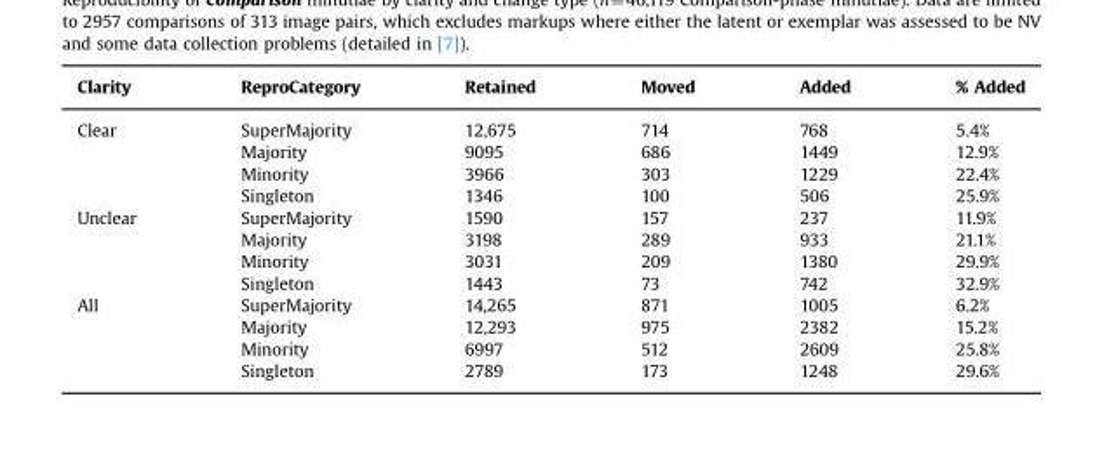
<table><thead><tr><td>Clarity</td><td>ReproCategory</td><td>Retained</td><td>Moved</td><td>Added</td><td>% Added</td></tr></thead><tbody><tr><td rowspan="4">Clear</td><td>SuperMajority</td><td>12,675</td><td>714</td><td>768</td><td>5.4%</td></tr><tr><td>Majority</td><td>9095</td><td>686</td><td>1449</td><td>12.9%</td></tr><tr><td>Minority</td><td>3966</td><td>303</td><td>1229</td><td>22.4%</td></tr><tr><td>Singleton</td><td>1346</td><td>100</td><td>506</td><td>25.9%</td></tr><tr><td rowspan="4">Unclear</td><td>SuperMajority</td><td>1590</td><td>157</td><td>237</td><td>11.9%</td></tr><tr><td>Majority</td><td>3198</td><td>289</td><td>933</td><td>21.1%</td></tr><tr><td>Minority</td><td>3031</td><td>209</td><td>1380</td><td>29.9%</td></tr><tr><td>Singleton</td><td>1443</td><td>73</td><td>742</td><td>32.9%</td></tr><tr><td rowspan="4">All</td><td>SuperMajority</td><td>14,265</td><td>871</td><td>1005</td><td>6.2%</td></tr><tr><td>Majority</td><td>12,293</td><td>975</td><td>2382</td><td>15.2%</td></tr><tr><td>Minority</td><td>6997</td><td>512</td><td>2609</td><td>25.8%</td></tr><tr><td>Singleton</td><td>2789</td><td>173</td><td>1248</td><td>29.6%</td></tr></tbody></table>